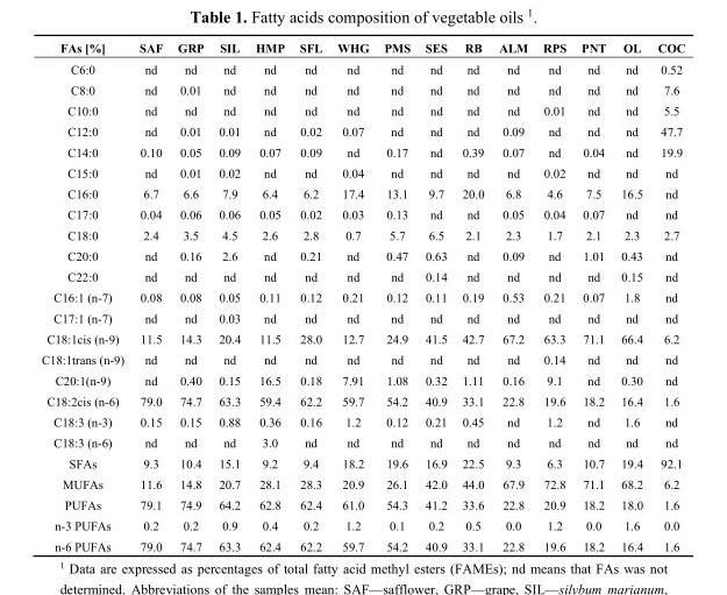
<table><thead><tr><td>FAs [%]</td><td>SAF</td><td>GRP</td><td>SIL</td><td>HMP</td><td>SFL</td><td>WHG</td><td>PMS</td><td>SES</td><td>RB</td><td>ALM</td><td>RPS</td><td>PNT</td><td>OL</td><td>COC</td></tr></thead><tbody><tr><td>C6:0</td><td>nd</td><td>nd</td><td>nd</td><td>nd</td><td>nd</td><td>nd</td><td>nd</td><td>nd</td><td>nd</td><td>nd</td><td>nd</td><td>nd</td><td>nd</td><td>0.52</td></tr><tr><td>C8:0</td><td>nd</td><td>0.01</td><td>nd</td><td>nd</td><td>nd</td><td>nd</td><td>nd</td><td>nd</td><td>nd</td><td>nd</td><td>nd</td><td>nd</td><td>nd</td><td>7.6</td></tr><tr><td>C10:0</td><td>nd</td><td>nd</td><td>nd</td><td>nd</td><td>nd</td><td>nd</td><td>nd</td><td>nd</td><td>nd</td><td>nd</td><td>0.01</td><td>nd</td><td>nd</td><td>5.5</td></tr><tr><td>C12:0</td><td>nd</td><td>0.01</td><td>0.01</td><td>nd</td><td>0.02</td><td>0.07</td><td>nd</td><td>nd</td><td>nd</td><td>0.09</td><td>nd</td><td>nd</td><td>nd</td><td>47.7</td></tr><tr><td>C14:0</td><td>0.10</td><td>0.05</td><td>0.09</td><td>0.07</td><td>0.09</td><td>nd</td><td>0.17</td><td>nd</td><td>0.39</td><td>0.07</td><td>nd</td><td>0.04</td><td>nd</td><td>19.9</td></tr><tr><td>C15:0</td><td>nd</td><td>0.01</td><td>0.02</td><td>nd</td><td>nd</td><td>0.04</td><td>nd</td><td>nd</td><td>nd</td><td>nd</td><td>0.02</td><td>nd</td><td>nd</td><td>nd</td></tr><tr><td>C16:0</td><td>6.7</td><td>6.6</td><td>7.9</td><td>6.4</td><td>6.2</td><td>17.4</td><td>13.1</td><td>9.7</td><td>20.0</td><td>6.8</td><td>4.6</td><td>7.5</td><td>16.5</td><td>nd</td></tr><tr><td>C17:0</td><td>0.04</td><td>0.06</td><td>0.06</td><td>0.05</td><td>0.02</td><td>0.03</td><td>0.13</td><td>nd</td><td>nd</td><td>0.05</td><td>0.04</td><td>0.07</td><td>nd</td><td>nd</td></tr><tr><td>C18:0</td><td>2.4</td><td>3.5</td><td>4.5</td><td>2.6</td><td>2.8</td><td>0.7</td><td>5.7</td><td>6.5</td><td>2.1</td><td>2.3</td><td>1.7</td><td>2.1</td><td>2.3</td><td>2.7</td></tr><tr><td>C20:0</td><td>nd</td><td>0.16</td><td>2.6</td><td>nd</td><td>0.21</td><td>nd</td><td>0.47</td><td>0.63</td><td>nd</td><td>0.09</td><td>nd</td><td>1.01</td><td>0.43</td><td>nd</td></tr><tr><td>C22:0</td><td>nd</td><td>nd</td><td>nd</td><td>nd</td><td>nd</td><td>nd</td><td>nd</td><td>0.14</td><td>nd</td><td>nd</td><td>nd</td><td>nd</td><td>0.15</td><td>nd</td></tr><tr><td>C16:1 (n-7)</td><td>0.08</td><td>0.08</td><td>0.05</td><td>0.11</td><td>0.12</td><td>0.21</td><td>0.12</td><td>0.11</td><td>0.19</td><td>0.53</td><td>0.21</td><td>0.07</td><td>1.8</td><td>nd</td></tr><tr><td>C17:1 (n-7)</td><td>nd</td><td>nd</td><td>0.03</td><td>nd</td><td>nd</td><td>nd</td><td>nd</td><td>nd</td><td>nd</td><td>nd</td><td>nd</td><td>nd</td><td>nd</td><td>nd</td></tr><tr><td>C18:1cis (n-9)</td><td>11.5</td><td>14.3</td><td>20.4</td><td>11.5</td><td>28.0</td><td>12.7</td><td>24.9</td><td>41.5</td><td>42.7</td><td>67.2</td><td>63.3</td><td>71.1</td><td>66.4</td><td>6.2</td></tr><tr><td>C18:1trans (n-9)</td><td>nd</td><td>nd</td><td>nd</td><td>nd</td><td>nd</td><td>nd</td><td>nd</td><td>nd</td><td>nd</td><td>nd</td><td>0.14</td><td>nd</td><td>nd</td><td>nd</td></tr><tr><td>C20:1(n-9)</td><td>nd</td><td>0.40</td><td>0.15</td><td>16.5</td><td>0.18</td><td>7.91</td><td>1.08</td><td>0.32</td><td>1.11</td><td>0.16</td><td>9.1</td><td>nd</td><td>0.30</td><td>nd</td></tr><tr><td>C18:2cis (n-6)</td><td>79.0</td><td>74.7</td><td>63.3</td><td>59.4</td><td>62.2</td><td>59.7</td><td>54.2</td><td>40.9</td><td>33.1</td><td>22.8</td><td>19.6</td><td>18.2</td><td>16.4</td><td>1.6</td></tr><tr><td>C18:3 (n-3)</td><td>0.15</td><td>0.15</td><td>0.88</td><td>0.36</td><td>0.16</td><td>1.2</td><td>0.12</td><td>0.21</td><td>0.45</td><td>nd</td><td>1.2</td><td>nd</td><td>1.6</td><td>nd</td></tr><tr><td>C18:3 (n-6)</td><td>nd</td><td>nd</td><td>nd</td><td>3.0</td><td>nd</td><td>nd</td><td>nd</td><td>nd</td><td>nd</td><td>nd</td><td>nd</td><td>nd</td><td>nd</td><td>nd</td></tr><tr><td>SFAs</td><td>9.3</td><td>10.4</td><td>15.1</td><td>9.2</td><td>9.4</td><td>18.2</td><td>19.6</td><td>16.9</td><td>22.5</td><td>9.3</td><td>6.3</td><td>10.7</td><td>19.4</td><td>92.1</td></tr><tr><td>MUFAs</td><td>11.6</td><td>14.8</td><td>20.7</td><td>28.1</td><td>28.3</td><td>20.9</td><td>26.1</td><td>42.0</td><td>44.0</td><td>67.9</td><td>72.8</td><td>71.1</td><td>68.2</td><td>6.2</td></tr><tr><td>PUFAs</td><td>79.1</td><td>74.9</td><td>64.2</td><td>62.8</td><td>62.4</td><td>61.0</td><td>54.3</td><td>41.2</td><td>33.6</td><td>22.8</td><td>20.9</td><td>18.2</td><td>18.0</td><td>1.6</td></tr><tr><td>n-3 PUFAs</td><td>0.2</td><td>0.2</td><td>0.9</td><td>0.4</td><td>0.2</td><td>1.2</td><td>0.1</td><td>0.2</td><td>0.5</td><td>0.0</td><td>1.2</td><td>0.0</td><td>1.6</td><td>0.0</td></tr><tr><td>n-6 PUFAs</td><td>79.0</td><td>74.7</td><td>63.3</td><td>62.4</td><td>62.2</td><td>59.7</td><td>54.2</td><td>40.9</td><td>33.1</td><td>22.8</td><td>19.6</td><td>18.2</td><td>16.4</td><td>1.6</td></tr></tbody></table>